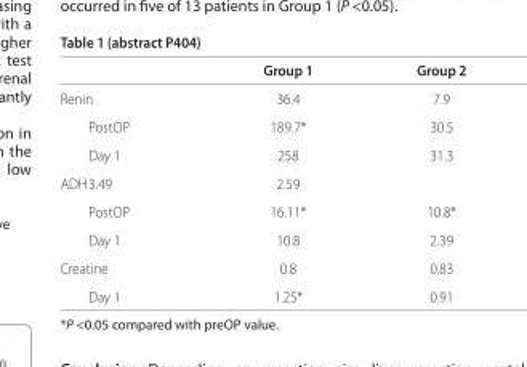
<table><thead><tr><td></td><td>Group 1</td><td>Group 2</td></tr></thead><tbody><tr><td>Renin</td><td>36.4</td><td>7.9</td></tr><tr><td>PostOP</td><td>189.7*</td><td>30.5</td></tr><tr><td>Day 1</td><td>258</td><td>31.3</td></tr><tr><td>ADH 3.49</td><td>2.59</td><td></td></tr><tr><td>PostOP</td><td>16.11*</td><td>10.8*</td></tr><tr><td>Day 1</td><td>10.8</td><td>2.39</td></tr><tr><td>Creatine</td><td>0.8</td><td>0.83</td></tr><tr><td>Day 1</td><td>1.25*</td><td>0.91</td></tr></tbody></table>